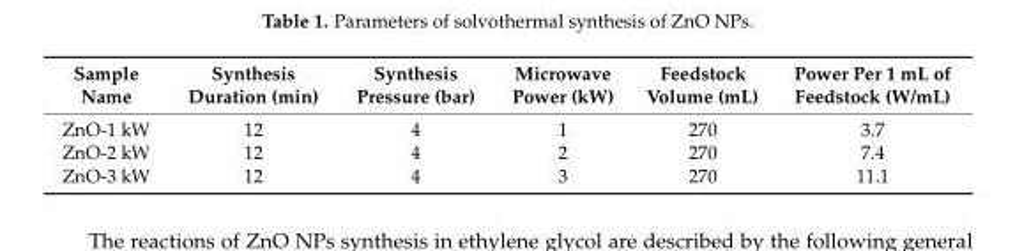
<table><thead><tr><td>Sample Name</td><td>Synthesis Duration (min)</td><td>Synthesis Pressure (bar)</td><td>Microwave Power (kW)</td><td>Feedstock Volume (mL)</td><td>Power Per 1 mL of Feedstock (W/mL)</td></tr></thead><tbody><tr><td>ZnO-1 kW</td><td>12</td><td>4</td><td>1</td><td>270</td><td>3.7</td></tr><tr><td>ZnO-2 kW</td><td>12</td><td>4</td><td>2</td><td>270</td><td>7.4</td></tr><tr><td>ZnO-3 kW</td><td>12</td><td>4</td><td>3</td><td>270</td><td>11.1</td></tr></tbody></table>